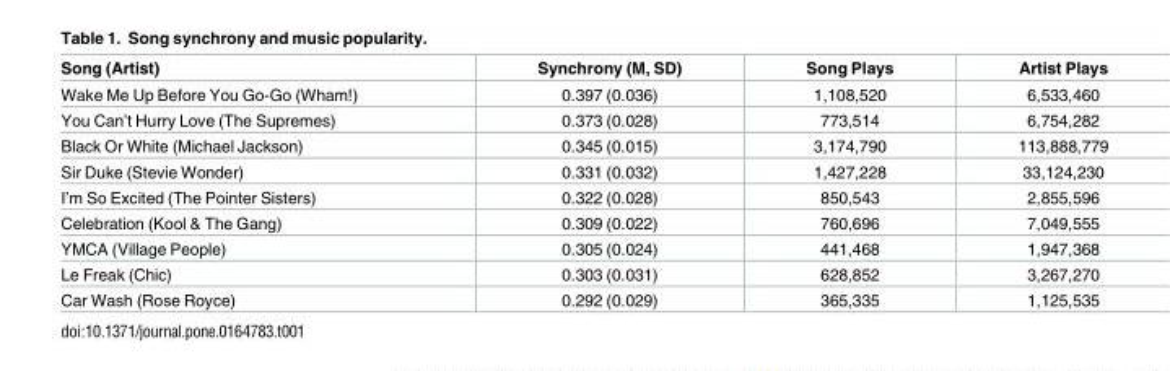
<table><thead><tr><td>Song (Artist)</td><td>Synchrony (M, SD)</td><td>Song Plays</td><td>Artist Plays</td></tr></thead><tbody><tr><td>Wake Me Up Before You Go-Go (Wham!)</td><td>0.397 (0.036)</td><td>1,108,520</td><td>6,533,460</td></tr><tr><td>You Can’t Hurry Love (The Supremes)</td><td>0.373 (0.028)</td><td>773,514</td><td>6,754,282</td></tr><tr><td>Black Or White (Michael Jackson)</td><td>0.345 (0.015)</td><td>3,174,790</td><td>113,888,779</td></tr><tr><td>Sir Duke (Stevie Wonder)</td><td>0.331 (0.032)</td><td>1,427,228</td><td>33,124,230</td></tr><tr><td>I’m So Excited (The Pointer Sisters)</td><td>0.322 (0.028)</td><td>850,543</td><td>2,855,596</td></tr><tr><td>Celebration (Kool &amp; The Gang)</td><td>0.309 (0.022)</td><td>760,696</td><td>7,049,555</td></tr><tr><td>YMCA (Village People)</td><td>0.305 (0.024)</td><td>441,468</td><td>1,947,368</td></tr><tr><td>Le Freak (Chic)</td><td>0.303 (0.031)</td><td>628,852</td><td>3,267,270</td></tr><tr><td>Car Wash (Rose Royce)</td><td>0.292 (0.029)</td><td>365,335</td><td>1,125,535</td></tr></tbody></table>